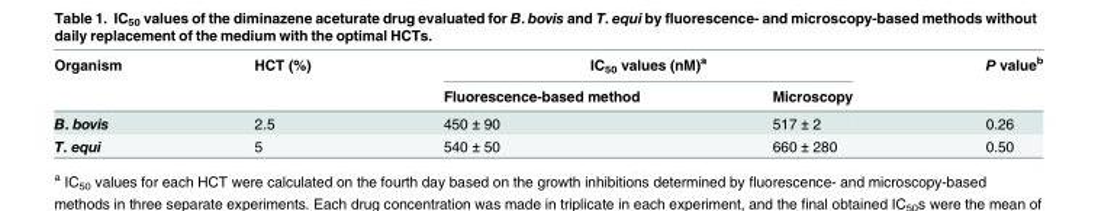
<table><thead><tr><td rowspan="2">Organism</td><td rowspan="2">HCT (%)</td><td colspan="2">IC<sub>50</sub> values (nM)<sup>a</sup></td><td rowspan="2">P value<sup>b</sup></td></tr><tr><td>Fluorescence-based method</td><td>Microscopy</td></tr></thead><tbody><tr><td>B. bovis</td><td>2.5</td><td>450 ± 90</td><td>517 ± 2</td><td>0.26</td></tr><tr><td>T. equi</td><td>5</td><td>540 ± 50</td><td>660 ± 280</td><td>0.50</td></tr></tbody></table>